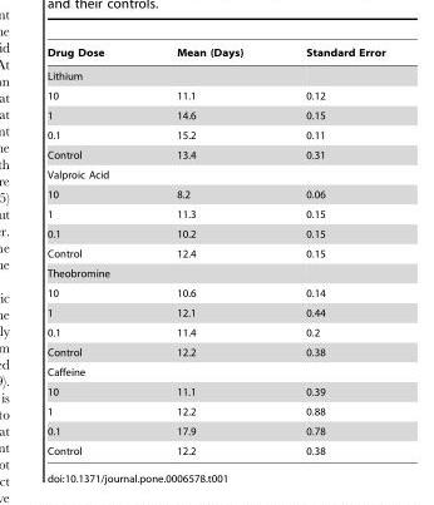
<table><thead><tr><td>Drug Dose</td><td>Mean (Days)</td><td>Standard Error</td></tr></thead><tbody><tr><td colspan="3">Lithium</td></tr><tr><td>10</td><td>11.1</td><td>0.12</td></tr><tr><td>1</td><td>14.6</td><td>0.15</td></tr><tr><td>0.1</td><td>15.2</td><td>0.11</td></tr><tr><td>Control</td><td>13.4</td><td>0.31</td></tr><tr><td colspan="3">Valproic Acid</td></tr><tr><td>10</td><td>8.2</td><td>0.06</td></tr><tr><td>1</td><td>11.3</td><td>0.15</td></tr><tr><td>0.1</td><td>10.2</td><td>0.15</td></tr><tr><td>Control</td><td>12.4</td><td>0.15</td></tr><tr><td colspan="3">Theobromine</td></tr><tr><td>10</td><td>10.6</td><td>0.14</td></tr><tr><td>1</td><td>12.1</td><td>0.44</td></tr><tr><td>0.1</td><td>11.4</td><td>0.2</td></tr><tr><td>Control</td><td>12.2</td><td>0.38</td></tr><tr><td colspan="3">Caffeine</td></tr><tr><td>10</td><td>11.1</td><td>0.39</td></tr><tr><td>1</td><td>12.2</td><td>0.88</td></tr><tr><td>0.1</td><td>17.9</td><td>0.78</td></tr><tr><td>Control</td><td>12.2</td><td>0.38</td></tr></tbody></table>